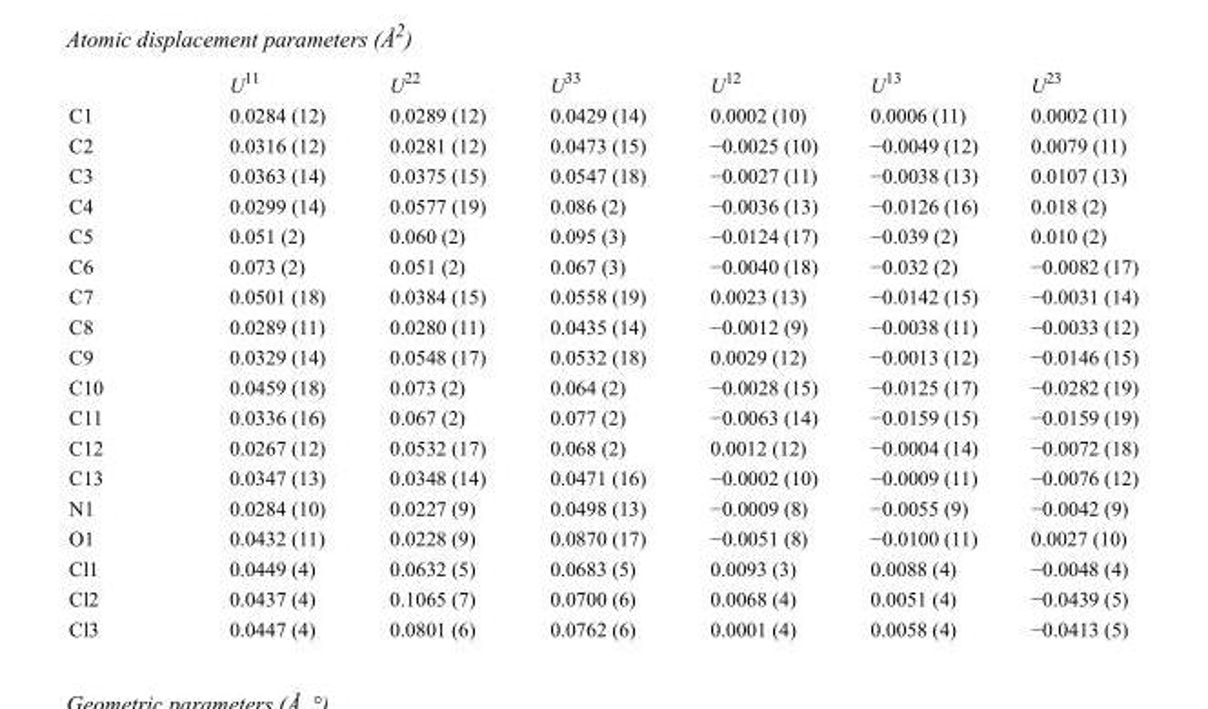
<table><thead><tr><td></td><td>U<sup>11</sup></td><td>U<sup>22</sup></td><td>U<sup>33</sup></td><td>U<sup>12</sup></td><td>U<sup>13</sup></td><td>U<sup>23</sup></td></tr></thead><tbody><tr><td>C1</td><td>0.0284 (12)</td><td>0.0289 (12)</td><td>0.0429 (14)</td><td>0.0002 (10)</td><td>0.0006 (11)</td><td>0.0002 (11)</td></tr><tr><td>C2</td><td>0.0316 (12)</td><td>0.0281 (12)</td><td>0.0473 (15)</td><td>−0.0025 (10)</td><td>−0.0049 (12)</td><td>0.0079 (11)</td></tr><tr><td>C3</td><td>0.0363 (14)</td><td>0.0375 (15)</td><td>0.0547 (18)</td><td>−0.0027 (11)</td><td>−0.0038 (13)</td><td>0.0107 (13)</td></tr><tr><td>C4</td><td>0.0299 (14)</td><td>0.0577 (19)</td><td>0.086 (2)</td><td>−0.0036 (13)</td><td>−0.0126 (16)</td><td>0.018 (2)</td></tr><tr><td>C5</td><td>0.051 (2)</td><td>0.060 (2)</td><td>0.095 (3)</td><td>−0.0124 (17)</td><td>−0.039 (2)</td><td>0.010 (2)</td></tr><tr><td>C6</td><td>0.073 (2)</td><td>0.051 (2)</td><td>0.067 (3)</td><td>−0.0040 (18)</td><td>−0.032 (2)</td><td>−0.0082 (17)</td></tr><tr><td>C7</td><td>0.0501 (18)</td><td>0.0384 (15)</td><td>0.0558 (19)</td><td>0.0023 (13)</td><td>−0.0142 (15)</td><td>−0.0031 (14)</td></tr><tr><td>C8</td><td>0.0289 (11)</td><td>0.0280 (11)</td><td>0.0435 (14)</td><td>−0.0012 (9)</td><td>−0.0038 (11)</td><td>−0.0033 (12)</td></tr><tr><td>C9</td><td>0.0329 (14)</td><td>0.0548 (17)</td><td>0.0532 (18)</td><td>0.0029 (12)</td><td>−0.0013 (12)</td><td>−0.0146 (15)</td></tr><tr><td>C10</td><td>0.0459 (18)</td><td>0.073 (2)</td><td>0.064 (2)</td><td>−0.0028 (15)</td><td>−0.0125 (17)</td><td>−0.0282 (19)</td></tr><tr><td>C11</td><td>0.0336 (16)</td><td>0.067 (2)</td><td>0.077 (2)</td><td>−0.0063 (14)</td><td>−0.0159 (15)</td><td>−0.0159 (19)</td></tr><tr><td>C12</td><td>0.0267 (12)</td><td>0.0532 (17)</td><td>0.068 (2)</td><td>0.0012 (12)</td><td>−0.0004 (14)</td><td>−0.0072 (18)</td></tr><tr><td>C13</td><td>0.0347 (13)</td><td>0.0348 (14)</td><td>0.0471 (16)</td><td>−0.0002 (10)</td><td>−0.0009 (11)</td><td>−0.0076 (12)</td></tr><tr><td>N1</td><td>0.0284 (10)</td><td>0.0227 (9)</td><td>0.0498 (13)</td><td>−0.0009 (8)</td><td>−0.0055 (9)</td><td>−0.0042 (9)</td></tr><tr><td>O1</td><td>0.0432 (11)</td><td>0.0228 (9)</td><td>0.0870 (17)</td><td>−0.0051 (8)</td><td>−0.0100 (11)</td><td>0.0027 (10)</td></tr><tr><td>Cl1</td><td>0.0449 (4)</td><td>0.0632 (5)</td><td>0.0683 (5)</td><td>0.0093 (3)</td><td>0.0088 (4)</td><td>−0.0048 (4)</td></tr><tr><td>Cl2</td><td>0.0437 (4)</td><td>0.1065 (7)</td><td>0.0700 (6)</td><td>0.0068 (4)</td><td>0.0051 (4)</td><td>−0.0439 (5)</td></tr><tr><td>Cl3</td><td>0.0447 (4)</td><td>0.0801 (6)</td><td>0.0762 (6)</td><td>0.0001 (4)</td><td>0.0058 (4)</td><td>−0.0413 (5)</td></tr></tbody></table>